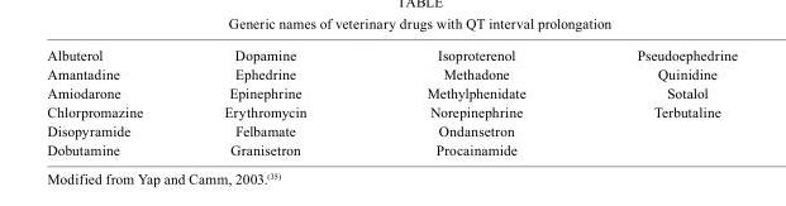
<table><tbody><tr><td>Albuterol</td><td>Dopamine</td><td>Isoproterenol</td><td>Pseudoephedrine</td></tr><tr><td>Amantadine</td><td>Ephedrine</td><td>Methadone</td><td>Quinidine</td></tr><tr><td>Amiodarone</td><td>Epinephrine</td><td>Methylphenidate</td><td>Sotalol</td></tr><tr><td>Chlorpromazine</td><td>Erythromycin</td><td>Norepinephrine</td><td>Terbutaline</td></tr><tr><td>Disopyramide</td><td>Felbamate</td><td>Ondansetron</td><td></td></tr><tr><td>Dobutamine</td><td>Granisetron</td><td>Procainamide</td><td></td></tr></tbody></table>